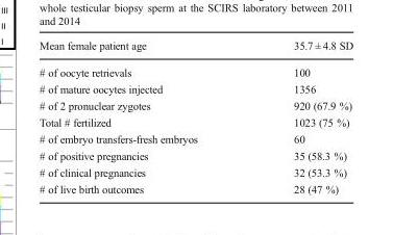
<table><thead><tr><td>Mean female patient age</td><td>35.7 ± 4.8 SD</td></tr></thead><tbody><tr><td># of oocyte retrievals</td><td>100</td></tr><tr><td># of mature oocytes injected</td><td>1356</td></tr><tr><td># of 2 pronuclear zygotes</td><td>920 (67.9 %)</td></tr><tr><td>Total # fertilized</td><td>1023 (75 %)</td></tr><tr><td># of embryo transfers-fresh embryos</td><td>60</td></tr><tr><td># of positive pregnancies</td><td>35 (58.3 %)</td></tr><tr><td># of clinical pregnancies</td><td>32 (53.3 %)</td></tr><tr><td># of live birth outcomes</td><td>28 (47 %)</td></tr></tbody></table>